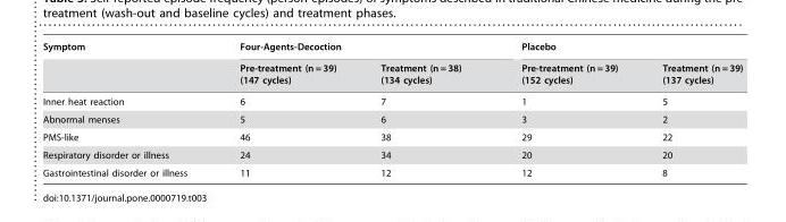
<table><thead><tr><td rowspan="2">Symptom</td><td colspan="2">Four-Agents-Decoction</td><td colspan="2">Placebo</td></tr><tr><td>Pre-treatment (n = 39) (147 cycles)</td><td>Treatment (n = 38) (134 cycles)</td><td>Pre-treatment (n = 39) (152 cycles)</td><td>Treatment (n = 39) (137 cycles)</td></tr></thead><tbody><tr><td>Inner heat reaction</td><td>6</td><td>7</td><td>1</td><td>5</td></tr><tr><td>Abnormal menses</td><td>5</td><td>6</td><td>3</td><td>2</td></tr><tr><td>PMS-like</td><td>46</td><td>38</td><td>29</td><td>22</td></tr><tr><td>Respiratory disorder or illness</td><td>24</td><td>34</td><td>20</td><td>20</td></tr><tr><td>Gastrointestinal disorder or illness</td><td>11</td><td>12</td><td>12</td><td>8</td></tr></tbody></table>